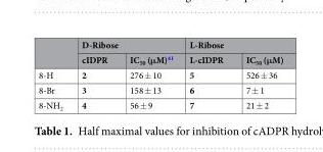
<table><thead><tr><td rowspan="2"></td><td colspan="2">D-Ribose</td><td colspan="2">L-Ribose</td></tr><tr><td>cIDPR</td><td>IC<sub>50</sub> (μM)<sup>41</sup></td><td>L-cIDPR</td><td>IC<sub>50</sub> (μM)</td></tr></thead><tbody><tr><td>8-H</td><td>2</td><td>276 ± 10</td><td>5</td><td>526 ± 36</td></tr><tr><td>8-Br</td><td>3</td><td>158 ± 13</td><td>6</td><td>7 ± 1</td></tr><tr><td>8-NH<sub>2</sub></td><td>4</td><td>56 ± 9</td><td>7</td><td>21 ± 2</td></tr></tbody></table>